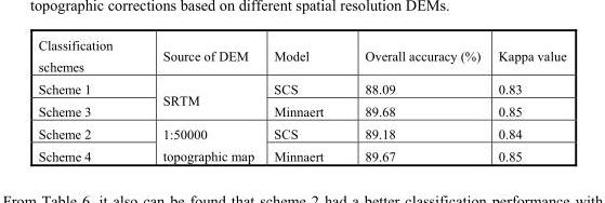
<table><thead><tr><td>Classification schemes</td><td>Source of DEM</td><td>Model</td><td>Overall accuracy (%)</td><td>Kappa value</td></tr></thead><tbody><tr><td>Scheme 1</td><td rowspan="2">SRTM</td><td>SCS</td><td>88.09</td><td>0.83</td></tr><tr><td>Scheme 3</td><td>Minnaert</td><td>89.68</td><td>0.85</td></tr><tr><td>Scheme 2</td><td rowspan="2">1:50000 topographic map</td><td>SCS</td><td>89.18</td><td>0.84</td></tr><tr><td>Scheme 4</td><td>Minnaert</td><td>89.67</td><td>0.85</td></tr></tbody></table>